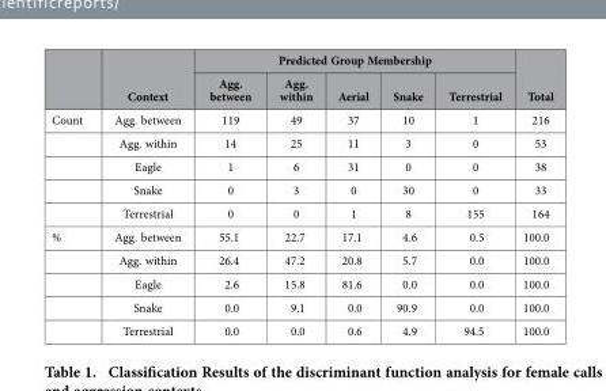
<table><thead><tr><td rowspan="2"></td><td rowspan="2">Context</td><td colspan="5">Predicted Group Membership</td><td rowspan="2">Total</td></tr><tr><td>Agg. between</td><td>Agg. within</td><td>Aerial</td><td>Snake</td><td>Terrestrial</td></tr></thead><tbody><tr><td rowspan="5">Count</td><td>Agg. between</td><td>119</td><td>49</td><td>37</td><td>10</td><td>1</td><td>216</td></tr><tr><td>Agg. within</td><td>14</td><td>25</td><td>11</td><td>3</td><td>0</td><td>53</td></tr><tr><td>Eagle</td><td>1</td><td>6</td><td>31</td><td>0</td><td>0</td><td>38</td></tr><tr><td>Snake</td><td>0</td><td>3</td><td>0</td><td>30</td><td>0</td><td>33</td></tr><tr><td>Terrestrial</td><td>0</td><td>0</td><td>1</td><td>8</td><td>155</td><td>164</td></tr><tr><td rowspan="5">%</td><td>Agg. between</td><td>55.1</td><td>22.7</td><td>17.1</td><td>4.6</td><td>0.5</td><td>100.0</td></tr><tr><td>Agg. within</td><td>26.4</td><td>47.2</td><td>20.8</td><td>5.7</td><td>0.0</td><td>100.0</td></tr><tr><td>Eagle</td><td>2.6</td><td>15.8</td><td>81.6</td><td>0.0</td><td>0.0</td><td>100.0</td></tr><tr><td>Snake</td><td>0.0</td><td>9.1</td><td>0.0</td><td>90.9</td><td>0.0</td><td>100.0</td></tr><tr><td>Terrestrial</td><td>0.0</td><td>0.0</td><td>0.6</td><td>4.9</td><td>94.5</td><td>100.0</td></tr></tbody></table>